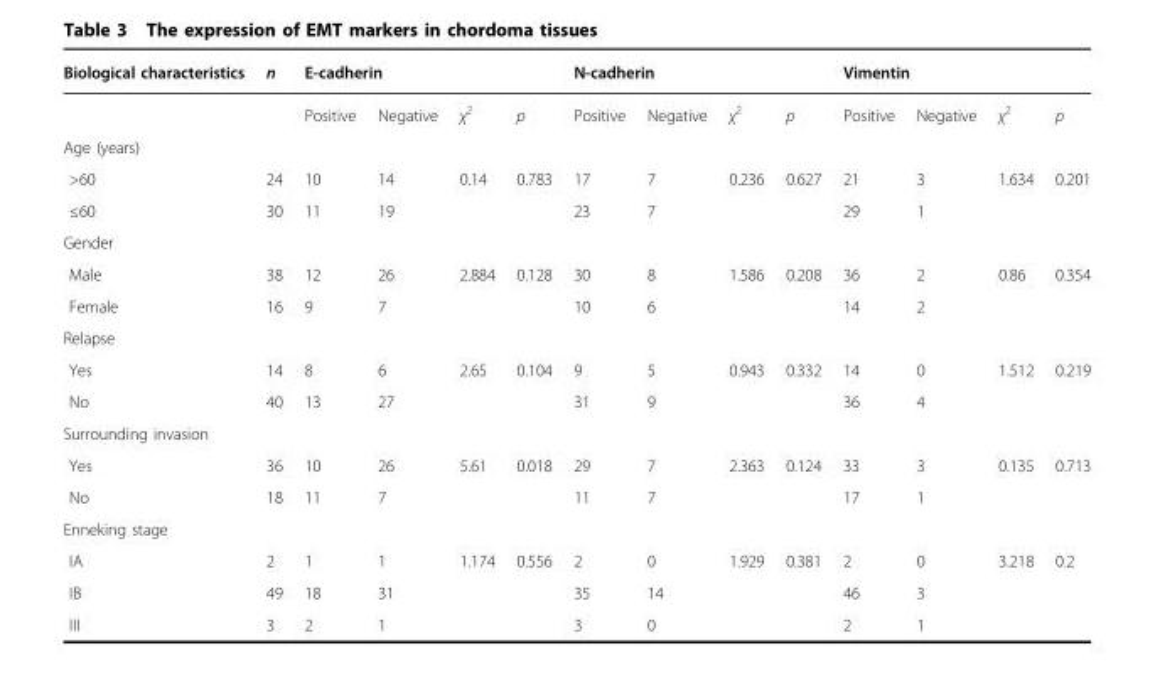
<table><thead><tr><td rowspan="2">Biological characteristics</td><td rowspan="2">n</td><td colspan="4">E-cadherin</td><td colspan="4">N-cadherin</td><td colspan="4">Vimentin</td></tr><tr><td>Positive</td><td>Negative</td><td>χ<sup>2</sup></td><td>p</td><td>Positive</td><td>Negative</td><td>χ<sup>2</sup></td><td>p</td><td>Positive</td><td>Negative</td><td>χ<sup>2</sup></td><td>p</td></tr></thead><tbody><tr><td colspan="14">Age (years)</td></tr><tr><td>&gt;60</td><td>24</td><td>10</td><td>14</td><td rowspan="2">0.14</td><td rowspan="2">0.783</td><td>17</td><td>7</td><td rowspan="2">0.236</td><td rowspan="2">0.627</td><td>21</td><td>3</td><td rowspan="2">1.634</td><td rowspan="2">0.201</td></tr><tr><td>≤60</td><td>30</td><td>11</td><td>19</td><td>23</td><td>7</td><td>29</td><td>1</td></tr><tr><td colspan="14">Gender</td></tr><tr><td>Male</td><td>38</td><td>12</td><td>26</td><td rowspan="2">2.884</td><td rowspan="2">0.128</td><td>30</td><td>8</td><td rowspan="2">1.586</td><td rowspan="2">0.208</td><td>36</td><td>2</td><td rowspan="2">0.86</td><td rowspan="2">0.354</td></tr><tr><td>Female</td><td>16</td><td>9</td><td>7</td><td>10</td><td>6</td><td>14</td><td>2</td></tr><tr><td colspan="14">Relapse</td></tr><tr><td>Yes</td><td>14</td><td>8</td><td>6</td><td rowspan="2">2.65</td><td rowspan="2">0.104</td><td>9</td><td>5</td><td rowspan="2">0.943</td><td rowspan="2">0.332</td><td>14</td><td>0</td><td rowspan="2">1.512</td><td rowspan="2">0.219</td></tr><tr><td>No</td><td>40</td><td>13</td><td>27</td><td>31</td><td>9</td><td>36</td><td>4</td></tr><tr><td colspan="14">Surrounding invasion</td></tr><tr><td>Yes</td><td>36</td><td>10</td><td>26</td><td rowspan="2">5.61</td><td rowspan="2">0.018</td><td>29</td><td>7</td><td rowspan="2">2.363</td><td rowspan="2">0.124</td><td>33</td><td>3</td><td rowspan="2">0.135</td><td rowspan="2">0.713</td></tr><tr><td>No</td><td>18</td><td>11</td><td>7</td><td>11</td><td>7</td><td>17</td><td>1</td></tr><tr><td colspan="14">Enneking stage</td></tr><tr><td>IA</td><td>2</td><td>1</td><td>1</td><td rowspan="3">1.174</td><td rowspan="3">0.556</td><td>2</td><td>0</td><td rowspan="3">1.929</td><td rowspan="3">0.381</td><td>2</td><td>0</td><td rowspan="3">3.218</td><td rowspan="3">0.2</td></tr><tr><td>IB</td><td>49</td><td>18</td><td>31</td><td>35</td><td>14</td><td>46</td><td>3</td></tr><tr><td>III</td><td>3</td><td>2</td><td>1</td><td>3</td><td>0</td><td>2</td><td>1</td></tr></tbody></table>